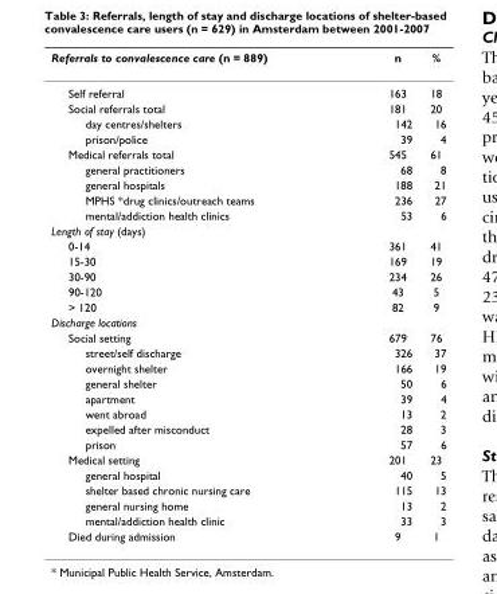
<table><thead><tr><td>Referrals to convalescence care (n = 889)</td><td>n</td><td>%</td></tr></thead><tbody><tr><td>Self referral</td><td>163</td><td>18</td></tr><tr><td>Social referrals total</td><td>181</td><td>20</td></tr><tr><td>day centres/shelters</td><td>142</td><td>16</td></tr><tr><td>prison/police</td><td>39</td><td>4</td></tr><tr><td>Medical referrals total</td><td>545</td><td>61</td></tr><tr><td>general practitioners</td><td>68</td><td>8</td></tr><tr><td>general hospitals</td><td>188</td><td>21</td></tr><tr><td>MPHS *drug clinics/outreach teams</td><td>236</td><td>27</td></tr><tr><td>mental/addiction health clinics</td><td>53</td><td>6</td></tr><tr><td colspan="3">Length of stay (days)</td></tr><tr><td>0-14</td><td>361</td><td>41</td></tr><tr><td>15-30</td><td>169</td><td>19</td></tr><tr><td>30-90</td><td>234</td><td>26</td></tr><tr><td>90-120</td><td>43</td><td>5</td></tr><tr><td>&gt; 120</td><td>82</td><td>9</td></tr><tr><td colspan="3">Discharge locations</td></tr><tr><td>Social setting</td><td>679</td><td>76</td></tr><tr><td>street/self discharge</td><td>326</td><td>37</td></tr><tr><td>overnight shelter</td><td>166</td><td>19</td></tr><tr><td>general shelter</td><td>50</td><td>6</td></tr><tr><td>apartment</td><td>39</td><td>4</td></tr><tr><td>went abroad</td><td>13</td><td>2</td></tr><tr><td>expelled after misconduct</td><td>28</td><td>3</td></tr><tr><td>prison</td><td>57</td><td>6</td></tr><tr><td>Medical setting</td><td>201</td><td>23</td></tr><tr><td>general hospital</td><td>40</td><td>5</td></tr><tr><td>shelter based chronic nursing care</td><td>115</td><td>13</td></tr><tr><td>general nursing home</td><td>13</td><td>2</td></tr><tr><td>mental/addiction health clinic</td><td>33</td><td>3</td></tr><tr><td>Died during admission</td><td>9</td><td>1</td></tr></tbody></table>